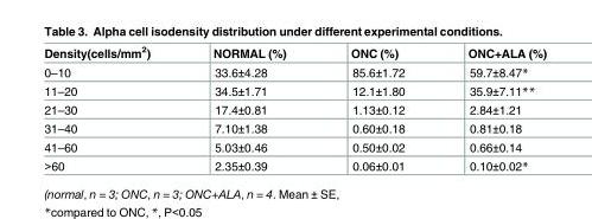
<table><thead><tr><td>Density(cells/mm<sup>2</sup>)</td><td>NORMAL (%)</td><td>ONC (%)</td><td>ONC+ALA (%)</td></tr></thead><tbody><tr><td>0–10</td><td>33.6±4.28</td><td>85.6±1.72</td><td>59.7±8.47*</td></tr><tr><td>11–20</td><td>34.5±1.71</td><td>12.1±1.80</td><td>35.9±7.11**</td></tr><tr><td>21–30</td><td>17.4±0.81</td><td>1.13±0.12</td><td>2.84±1.21</td></tr><tr><td>31–40</td><td>7.10±1.38</td><td>0.60±0.18</td><td>0.81±0.18</td></tr><tr><td>41–60</td><td>5.03±0.46</td><td>0.50±0.02</td><td>0.66±0.14</td></tr><tr><td>&gt;60</td><td>2.35±0.39</td><td>0.06±0.01</td><td>0.10±0.02*</td></tr></tbody></table>